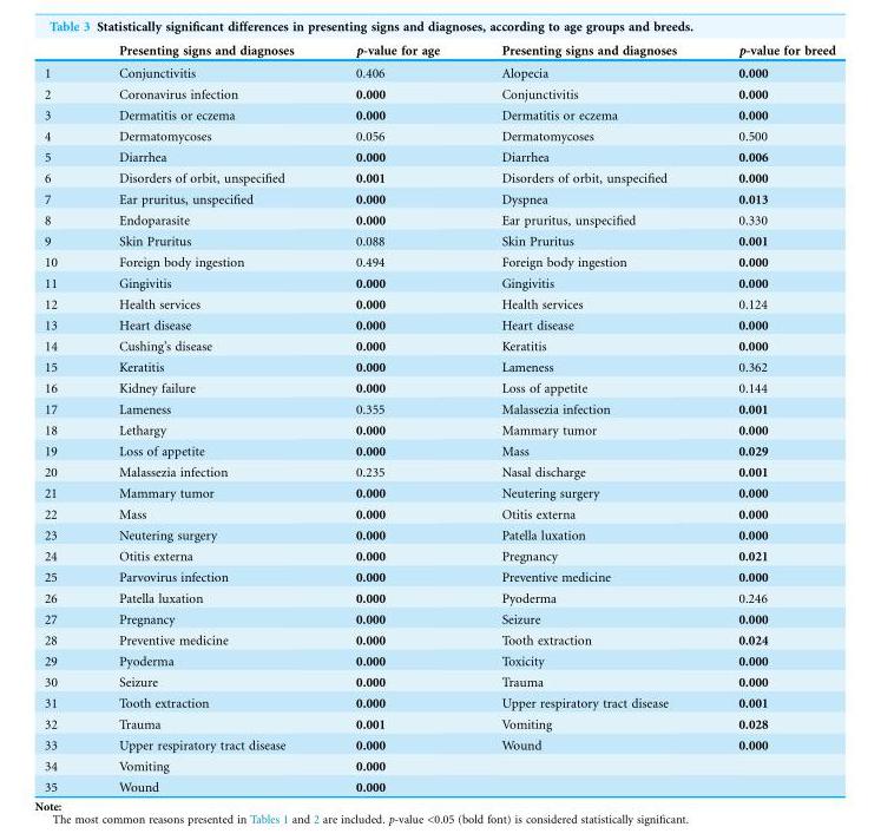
<table><thead><tr><td></td><td>Presenting signs and diagnoses</td><td>p-value for age</td><td>Presenting signs and diagnoses</td><td>p-value for breed</td></tr></thead><tbody><tr><td>1</td><td>Conjunctivitis</td><td>0.406</td><td>Alopecia</td><td>0.000</td></tr><tr><td>2</td><td>Coronavirus infection</td><td>0.000</td><td>Conjunctivitis</td><td>0.000</td></tr><tr><td>3</td><td>Dermatitis or eczema</td><td>0.000</td><td>Dermatitis or eczema</td><td>0.000</td></tr><tr><td>4</td><td>Dermatomycoses</td><td>0.056</td><td>Dermatomycoses</td><td>0.500</td></tr><tr><td>5</td><td>Diarrhea</td><td>0.000</td><td>Diarrhea</td><td>0.006</td></tr><tr><td>6</td><td>Disorders of orbit, unspecified</td><td>0.001</td><td>Disorders of orbit, unspecified</td><td>0.000</td></tr><tr><td>7</td><td>Ear pruritus, unspecified</td><td>0.000</td><td>Dyspnea</td><td>0.013</td></tr><tr><td>8</td><td>Endoparasite</td><td>0.000</td><td>Ear pruritus, unspecified</td><td>0.330</td></tr><tr><td>9</td><td>Skin Pruritus</td><td>0.088</td><td>Skin Pruritus</td><td>0.001</td></tr><tr><td>10</td><td>Foreign body ingestion</td><td>0.494</td><td>Foreign body ingestion</td><td>0.000</td></tr><tr><td>11</td><td>Gingivitis</td><td>0.000</td><td>Gingivitis</td><td>0.000</td></tr><tr><td>12</td><td>Health services</td><td>0.000</td><td>Health services</td><td>0.124</td></tr><tr><td>13</td><td>Heart disease</td><td>0.000</td><td>Heart disease</td><td>0.000</td></tr><tr><td>14</td><td>Cushing’s disease</td><td>0.000</td><td>Keratitis</td><td>0.000</td></tr><tr><td>15</td><td>Keratitis</td><td>0.000</td><td>Lameness</td><td>0.362</td></tr><tr><td>16</td><td>Kidney failure</td><td>0.000</td><td>Loss of appetite</td><td>0.144</td></tr><tr><td>17</td><td>Lameness</td><td>0.355</td><td>Malassezia infection</td><td>0.001</td></tr><tr><td>18</td><td>Lethargy</td><td>0.000</td><td>Mammary tumor</td><td>0.000</td></tr><tr><td>19</td><td>Loss of appetite</td><td>0.000</td><td>Mass</td><td>0.029</td></tr><tr><td>20</td><td>Malassezia infection</td><td>0.235</td><td>Nasal discharge</td><td>0.001</td></tr><tr><td>21</td><td>Mammary tumor</td><td>0.000</td><td>Neutering surgery</td><td>0.000</td></tr><tr><td>22</td><td>Mass</td><td>0.000</td><td>Otitis externa</td><td>0.000</td></tr><tr><td>23</td><td>Neutering surgery</td><td>0.000</td><td>Patella luxation</td><td>0.000</td></tr><tr><td>24</td><td>Otitis externa</td><td>0.000</td><td>Pregnancy</td><td>0.021</td></tr><tr><td>25</td><td>Parvovirus infection</td><td>0.000</td><td>Preventive medicine</td><td>0.000</td></tr><tr><td>26</td><td>Patella luxation</td><td>0.000</td><td>Pyoderma</td><td>0.246</td></tr><tr><td>27</td><td>Pregnancy</td><td>0.000</td><td>Seizure</td><td>0.000</td></tr><tr><td>28</td><td>Preventive medicine</td><td>0.000</td><td>Tooth extraction</td><td>0.024</td></tr><tr><td>29</td><td>Pyoderma</td><td>0.000</td><td>Toxicity</td><td>0.000</td></tr><tr><td>30</td><td>Seizure</td><td>0.000</td><td>Trauma</td><td>0.000</td></tr><tr><td>31</td><td>Tooth extraction</td><td>0.000</td><td>Upper respiratory tract disease</td><td>0.001</td></tr><tr><td>32</td><td>Trauma</td><td>0.001</td><td>Vomiting</td><td>0.028</td></tr><tr><td>33</td><td>Upper respiratory tract disease</td><td>0.000</td><td>Wound</td><td>0.000</td></tr><tr><td>34</td><td>Vomiting</td><td>0.000</td><td></td><td></td></tr><tr><td>35</td><td>Wound</td><td>0.000</td><td></td><td></td></tr></tbody></table>